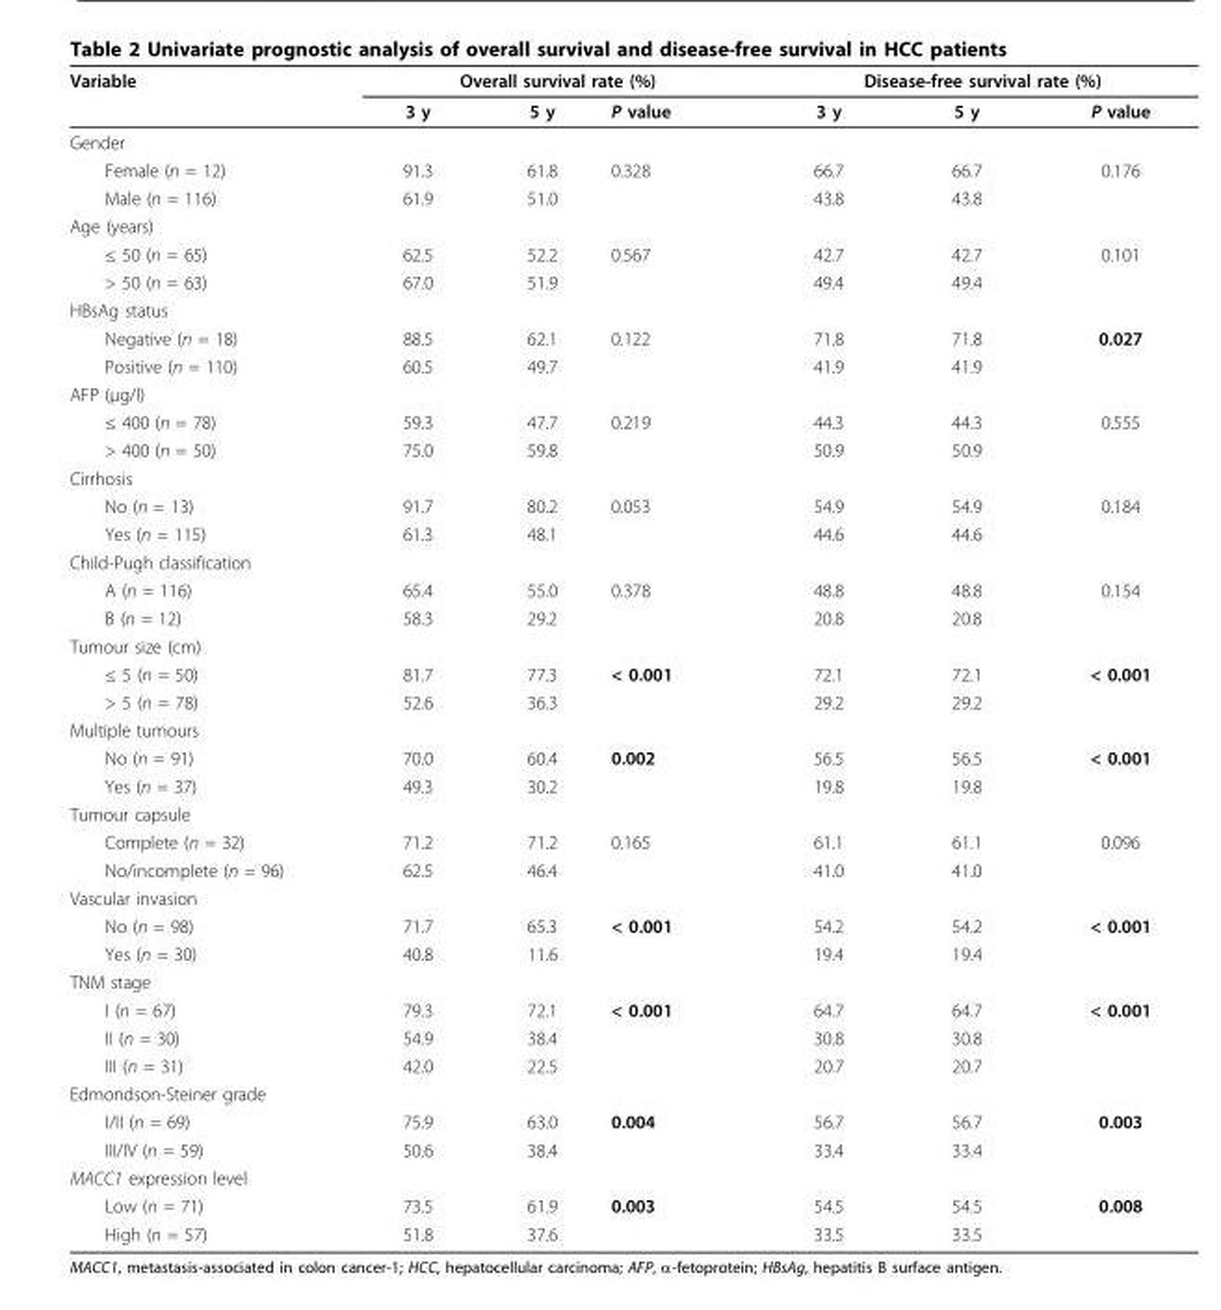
<table><thead><tr><td rowspan="2">Variable</td><td colspan="3">Overall survival rate (%)</td><td colspan="3">Disease-free survival rate (%)</td></tr><tr><td>3 y</td><td>5 y</td><td>P value</td><td>3 y</td><td>5 y</td><td>P value</td></tr></thead><tbody><tr><td colspan="7">Gender</td></tr><tr><td>Female (n = 12)</td><td>91.3</td><td>61.8</td><td>0.328</td><td>66.7</td><td>66.7</td><td>0.176</td></tr><tr><td>Male (n = 116)</td><td>61.9</td><td>51.0</td><td></td><td>43.8</td><td>43.8</td><td></td></tr><tr><td colspan="7">Age (years)</td></tr><tr><td>≤ 50 (n = 65)</td><td>62.5</td><td>52.2</td><td>0.567</td><td>42.7</td><td>42.7</td><td>0.101</td></tr><tr><td>&gt; 50 (n = 63)</td><td>67.0</td><td>51.9</td><td></td><td>49.4</td><td>49.4</td><td></td></tr><tr><td colspan="7">HBsAg status</td></tr><tr><td>Negative (n = 18)</td><td>88.5</td><td>62.1</td><td>0.122</td><td>71.8</td><td>71.8</td><td>0.027</td></tr><tr><td>Positive (n = 110)</td><td>60.5</td><td>49.7</td><td></td><td>41.9</td><td>41.9</td><td></td></tr><tr><td colspan="7">AFP (μg/l)</td></tr><tr><td>≤ 400 (n = 78)</td><td>59.3</td><td>47.7</td><td>0.219</td><td>44.3</td><td>44.3</td><td>0.555</td></tr><tr><td>&gt; 400 (n = 50)</td><td>75.0</td><td>59.8</td><td></td><td>50.9</td><td>50.9</td><td></td></tr><tr><td colspan="7">Cirrhosis</td></tr><tr><td>No (n = 13)</td><td>91.7</td><td>80.2</td><td>0.053</td><td>54.9</td><td>54.9</td><td>0.184</td></tr><tr><td>Yes (n = 115)</td><td>61.3</td><td>48.1</td><td></td><td>44.6</td><td>44.6</td><td></td></tr><tr><td colspan="7">Child-Pugh classification</td></tr><tr><td>A (n = 116)</td><td>65.4</td><td>55.0</td><td>0.378</td><td>48.8</td><td>48.8</td><td>0.154</td></tr><tr><td>B (n = 12)</td><td>58.3</td><td>29.2</td><td></td><td>20.8</td><td>20.8</td><td></td></tr><tr><td colspan="7">Tumour size (cm)</td></tr><tr><td>≤ 5 (n = 50)</td><td>81.7</td><td>77.3</td><td>&lt; 0.001</td><td>72.1</td><td>72.1</td><td>&lt; 0.001</td></tr><tr><td>&gt; 5 (n = 78)</td><td>52.6</td><td>36.3</td><td></td><td>29.2</td><td>29.2</td><td></td></tr><tr><td colspan="7">Multiple tumours</td></tr><tr><td>No (n = 91)</td><td>70.0</td><td>60.4</td><td>0.002</td><td>56.5</td><td>56.5</td><td>&lt; 0.001</td></tr><tr><td>Yes (n = 37)</td><td>49.3</td><td>30.2</td><td></td><td>19.8</td><td>19.8</td><td></td></tr><tr><td colspan="7">Tumour capsule</td></tr><tr><td>Complete (n = 32)</td><td>71.2</td><td>71.2</td><td>0.165</td><td>61.1</td><td>61.1</td><td>0.096</td></tr><tr><td>No/incomplete (n = 96)</td><td>62.5</td><td>46.4</td><td></td><td>41.0</td><td>41.0</td><td></td></tr><tr><td colspan="7">Vascular invasion</td></tr><tr><td>No (n = 98)</td><td>71.7</td><td>65.3</td><td>&lt; 0.001</td><td>54.2</td><td>54.2</td><td>&lt; 0.001</td></tr><tr><td>Yes (n = 30)</td><td>40.8</td><td>11.6</td><td></td><td>19.4</td><td>19.4</td><td></td></tr><tr><td colspan="7">TNM stage</td></tr><tr><td>I (n = 67)</td><td>79.3</td><td>72.1</td><td>&lt; 0.001</td><td>64.7</td><td>64.7</td><td>&lt; 0.001</td></tr><tr><td>II (n = 30)</td><td>54.9</td><td>38.4</td><td></td><td>30.8</td><td>30.8</td><td></td></tr><tr><td>III (n = 31)</td><td>42.0</td><td>22.5</td><td></td><td>20.7</td><td>20.7</td><td></td></tr><tr><td colspan="7">Edmondson-Steiner grade</td></tr><tr><td>I/II (n = 69)</td><td>75.9</td><td>63.0</td><td>0.004</td><td>56.7</td><td>56.7</td><td>0.003</td></tr><tr><td>III/IV (n = 59)</td><td>50.6</td><td>38.4</td><td></td><td>33.4</td><td>33.4</td><td></td></tr><tr><td colspan="7">MACC1 expression level</td></tr><tr><td>Low (n = 71)</td><td>73.5</td><td>61.9</td><td>0.003</td><td>54.5</td><td>54.5</td><td>0.008</td></tr><tr><td>High (n = 57)</td><td>51.8</td><td>37.6</td><td></td><td>33.5</td><td>33.5</td><td></td></tr></tbody></table>